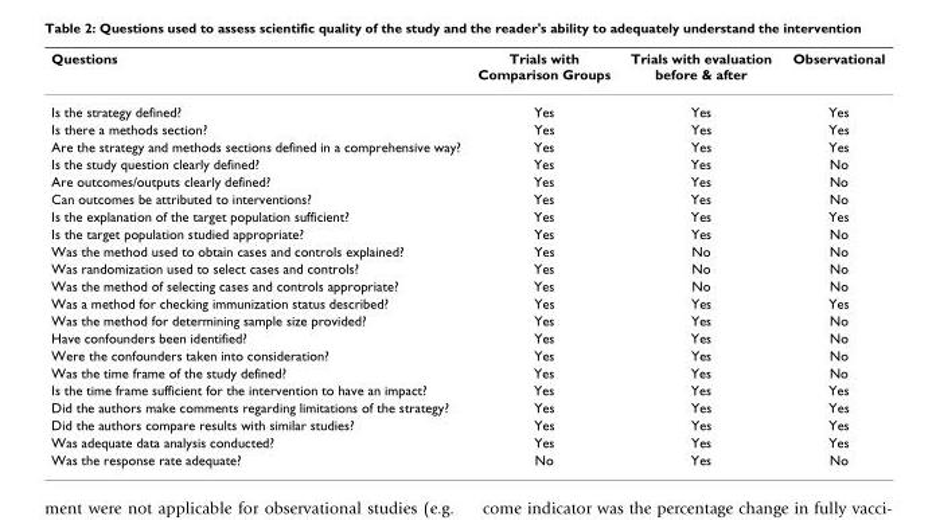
<table><thead><tr><td>Questions</td><td>Trials with Comparison Groups</td><td>Trials with evaluation before &amp; after</td><td>Observational</td></tr></thead><tbody><tr><td>Is the strategy defined?</td><td>Yes</td><td>Yes</td><td>Yes</td></tr><tr><td>Is there a methods section?</td><td>Yes</td><td>Yes</td><td>Yes</td></tr><tr><td>Are the strategy and methods sections defined in a comprehensive way?</td><td>Yes</td><td>Yes</td><td>Yes</td></tr><tr><td>Is the study question clearly defined?</td><td>Yes</td><td>Yes</td><td>No</td></tr><tr><td>Are outcomes/outputs clearly defined?</td><td>Yes</td><td>Yes</td><td>No</td></tr><tr><td>Can outcomes be attributed to interventions?</td><td>Yes</td><td>Yes</td><td>No</td></tr><tr><td>Is the explanation of the target population sufficient?</td><td>Yes</td><td>Yes</td><td>Yes</td></tr><tr><td>Is the target population studied appropriate?</td><td>Yes</td><td>Yes</td><td>No</td></tr><tr><td>Was the method used to obtain cases and controls explained?</td><td>Yes</td><td>No</td><td>No</td></tr><tr><td>Was randomization used to select cases and controls?</td><td>Yes</td><td>No</td><td>No</td></tr><tr><td>Was the method of selecting cases and controls appropriate?</td><td>Yes</td><td>No</td><td>No</td></tr><tr><td>Was a method for checking immunization status described?</td><td>Yes</td><td>Yes</td><td>Yes</td></tr><tr><td>Was the method for determining sample size provided?</td><td>Yes</td><td>Yes</td><td>No</td></tr><tr><td>Have confounders been identified?</td><td>Yes</td><td>Yes</td><td>No</td></tr><tr><td>Were the confounders taken into consideration?</td><td>Yes</td><td>Yes</td><td>No</td></tr><tr><td>Was the time frame of the study defined?</td><td>Yes</td><td>Yes</td><td>No</td></tr><tr><td>Is the time frame sufficient for the intervention to have an impact?</td><td>Yes</td><td>Yes</td><td>Yes</td></tr><tr><td>Did the authors make comments regarding limitations of the strategy?</td><td>Yes</td><td>Yes</td><td>Yes</td></tr><tr><td>Did the authors compare results with similar studies?</td><td>Yes</td><td>Yes</td><td>Yes</td></tr><tr><td>Was adequate data analysis conducted?</td><td>Yes</td><td>Yes</td><td>Yes</td></tr><tr><td>Was the response rate adequate?</td><td>No</td><td>Yes</td><td>No</td></tr></tbody></table>